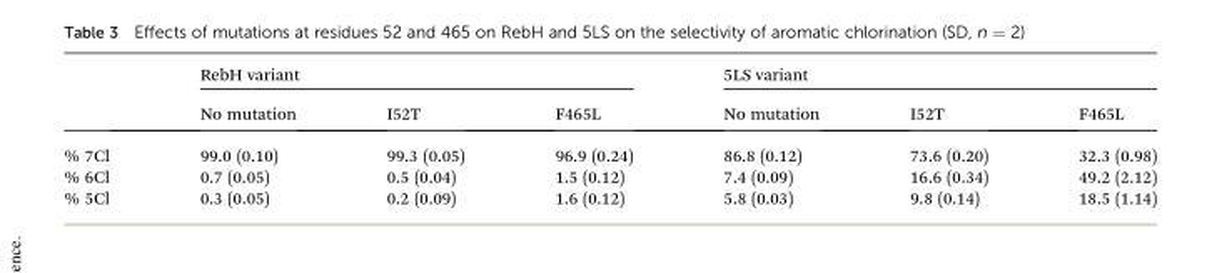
<table><thead><tr><td rowspan="2"></td><td colspan="3">RebH variant</td><td colspan="3">5LS variant</td></tr><tr><td>No mutation</td><td>I52T</td><td>F465L</td><td>No mutation</td><td>I52T</td><td>F465L</td></tr></thead><tbody><tr><td>% 7Cl</td><td>99.0 (0.10)</td><td>99.3 (0.05)</td><td>96.9 (0.24)</td><td>86.8 (0.12)</td><td>73.6 (0.20)</td><td>32.3 (0.98)</td></tr><tr><td>% 6Cl</td><td>0.7 (0.05)</td><td>0.5 (0.04)</td><td>1.5 (0.12)</td><td>7.4 (0.09)</td><td>16.6 (0.34)</td><td>49.2 (2.12)</td></tr><tr><td>% 5Cl</td><td>0.3 (0.05)</td><td>0.2 (0.09)</td><td>1.6 (0.12)</td><td>5.8 (0.03)</td><td>9.8 (0.14)</td><td>18.5 (1.14)</td></tr></tbody></table>